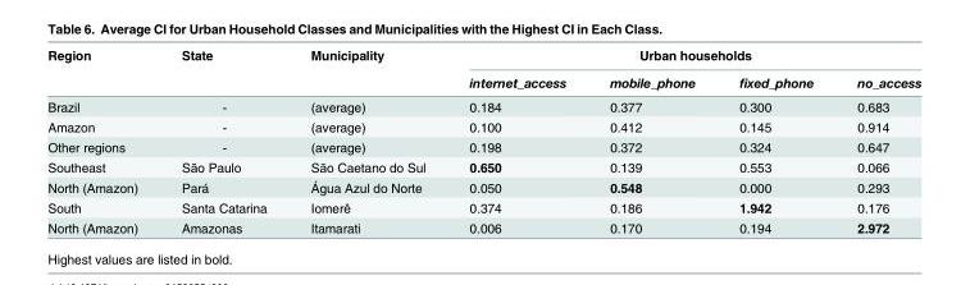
<table><thead><tr><td rowspan="2">Region</td><td rowspan="2">State</td><td rowspan="2">Municipality</td><td colspan="4">Urban households</td></tr><tr><td>internet_access</td><td>mobile_phone</td><td>fixed_phone</td><td>no_access</td></tr></thead><tbody><tr><td>Brazil</td><td>-</td><td>(average)</td><td>0.184</td><td>0.377</td><td>0.300</td><td>0.683</td></tr><tr><td>Amazon</td><td>-</td><td>(average)</td><td>0.100</td><td>0.412</td><td>0.145</td><td>0.914</td></tr><tr><td>Other regions</td><td>-</td><td>(average)</td><td>0.198</td><td>0.372</td><td>0.324</td><td>0.647</td></tr><tr><td>Southeast</td><td>São Paulo</td><td>São Caetano do Sul</td><td>0.650</td><td>0.139</td><td>0.553</td><td>0.066</td></tr><tr><td>North (Amazon)</td><td>Pará</td><td>Água Azul do Norte</td><td>0.050</td><td>0.548</td><td>0.000</td><td>0.293</td></tr><tr><td>South</td><td>Santa Catarina</td><td>Iomerê</td><td>0.374</td><td>0.186</td><td>1.942</td><td>0.176</td></tr><tr><td>North (Amazon)</td><td>Amazonas</td><td>Itamarati</td><td>0.006</td><td>0.170</td><td>0.194</td><td>2.972</td></tr></tbody></table>